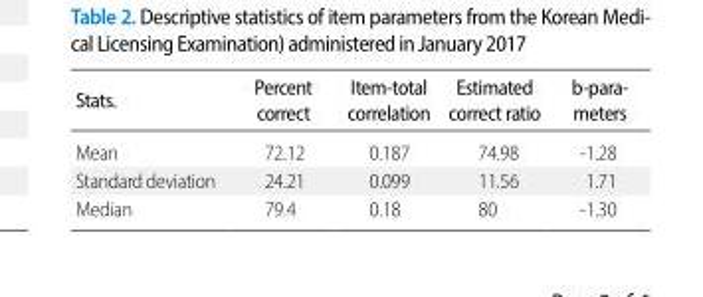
<table><thead><tr><td>Stats.</td><td>Percent correct</td><td>Item-total correlation</td><td>Estimated correct ratio</td><td>b-para- meters</td></tr></thead><tbody><tr><td>Mean</td><td>72.12</td><td>0.187</td><td>74.98</td><td>-1.28</td></tr><tr><td>Standard deviation</td><td>24.21</td><td>0.099</td><td>11.56</td><td>1.71</td></tr><tr><td>Median</td><td>79.4</td><td>0.18</td><td>80</td><td>-1.30</td></tr></tbody></table>